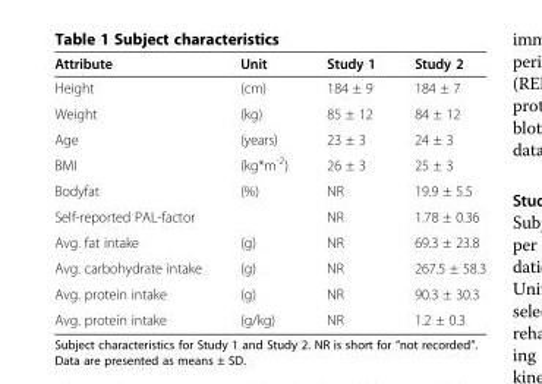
<table><thead><tr><td>Attribute</td><td>Unit</td><td>Study 1</td><td>Study 2</td></tr></thead><tbody><tr><td>Height</td><td>(cm)</td><td>184 ± 9</td><td>184 ± 7</td></tr><tr><td>Weight</td><td>(kg)</td><td>85 ± 12</td><td>84 ± 12</td></tr><tr><td>Age</td><td>(years)</td><td>23 ± 3</td><td>24 ± 3</td></tr><tr><td>BMI</td><td>(kg*m<sup>-2</sup>)</td><td>26 ± 3</td><td>25 ± 3</td></tr><tr><td>Bodyfat</td><td>(%)</td><td>NR</td><td>19.9 ± 5.5</td></tr><tr><td>Self-reported PAL-factor</td><td></td><td>NR</td><td>1.78 ± 0.36</td></tr><tr><td>Avg. fat intake</td><td>(g)</td><td>NR</td><td>69.3 ± 23.8</td></tr><tr><td>Avg. carbohydrate intake</td><td>(g)</td><td>NR</td><td>267.5 ± 58.3</td></tr><tr><td>Avg. protein intake</td><td>(g)</td><td>NR</td><td>90.3 ± 30.3</td></tr><tr><td>Avg. protein intake</td><td>(g/kg)</td><td>NR</td><td>1.2 ± 0.3</td></tr></tbody></table>